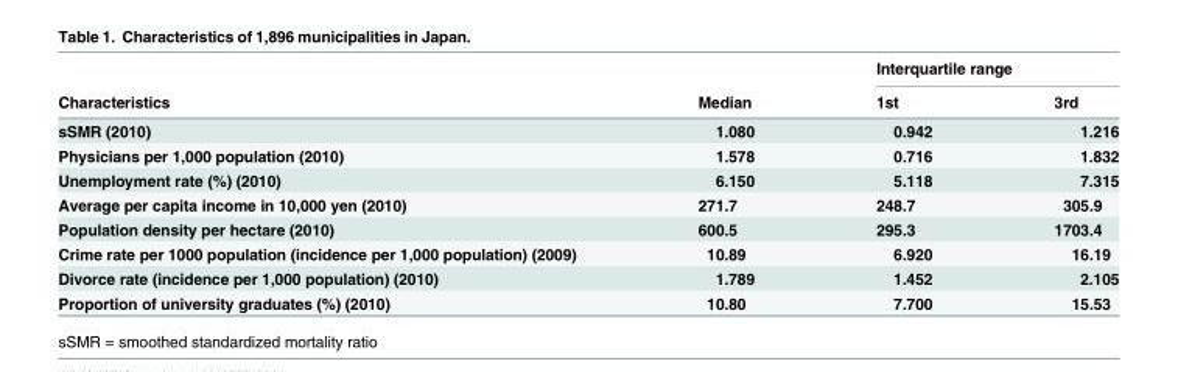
<table><thead><tr><td rowspan="2">Characteristics</td><td rowspan="2">Median</td><td colspan="2">Interquartile range</td></tr><tr><td>1st</td><td>3rd</td></tr></thead><tbody><tr><td>sSMR (2010)</td><td>1.080</td><td>0.942</td><td>1.216</td></tr><tr><td>Physicians per 1,000 population (2010)</td><td>1.578</td><td>0.716</td><td>1.832</td></tr><tr><td>Unemployment rate (%) (2010)</td><td>6.150</td><td>5.118</td><td>7.315</td></tr><tr><td>Average per capita income in 10,000 yen (2010)</td><td>271.7</td><td>248.7</td><td>305.9</td></tr><tr><td>Population density per hectare (2010)</td><td>600.5</td><td>295.3</td><td>1703.4</td></tr><tr><td>Crime rate per 1000 population (incidence per 1,000 population) (2009)</td><td>10.89</td><td>6.920</td><td>16.19</td></tr><tr><td>Divorce rate (incidence per 1,000 population) (2010)</td><td>1.789</td><td>1.452</td><td>2.105</td></tr><tr><td>Proportion of university graduates (%) (2010)</td><td>10.80</td><td>7.700</td><td>15.53</td></tr></tbody></table>